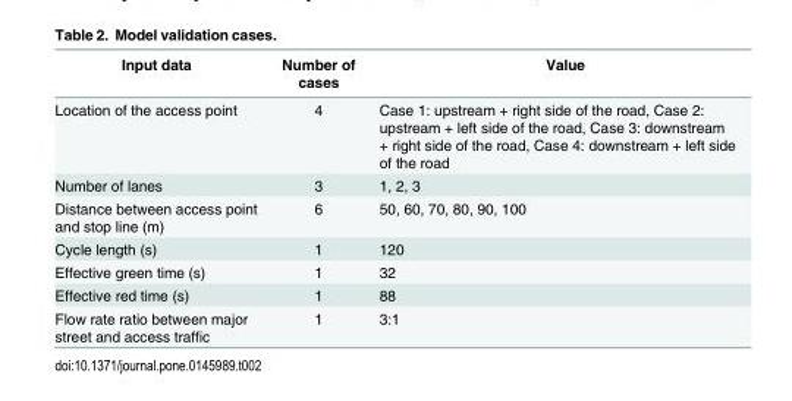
<table><thead><tr><td>Input data</td><td>Number of cases</td><td>Value</td></tr></thead><tbody><tr><td>Location of the access point</td><td>4</td><td>Case 1: upstream + right side of the road, Case 2: upstream + left side of the road, Case 3: downstream + right side of the road, Case 4: downstream + left side of the road</td></tr><tr><td>Number of lanes</td><td>3</td><td>1, 2, 3</td></tr><tr><td>Distance between access point and stop line (m)</td><td>6</td><td>50, 60, 70, 80, 90, 100</td></tr><tr><td>Cycle length (s)</td><td>1</td><td>120</td></tr><tr><td>Effective green time (s)</td><td>1</td><td>32</td></tr><tr><td>Effective red time (s)</td><td>1</td><td>88</td></tr><tr><td>Flow rate ratio between major street and access traffic</td><td>1</td><td>3:1</td></tr></tbody></table>